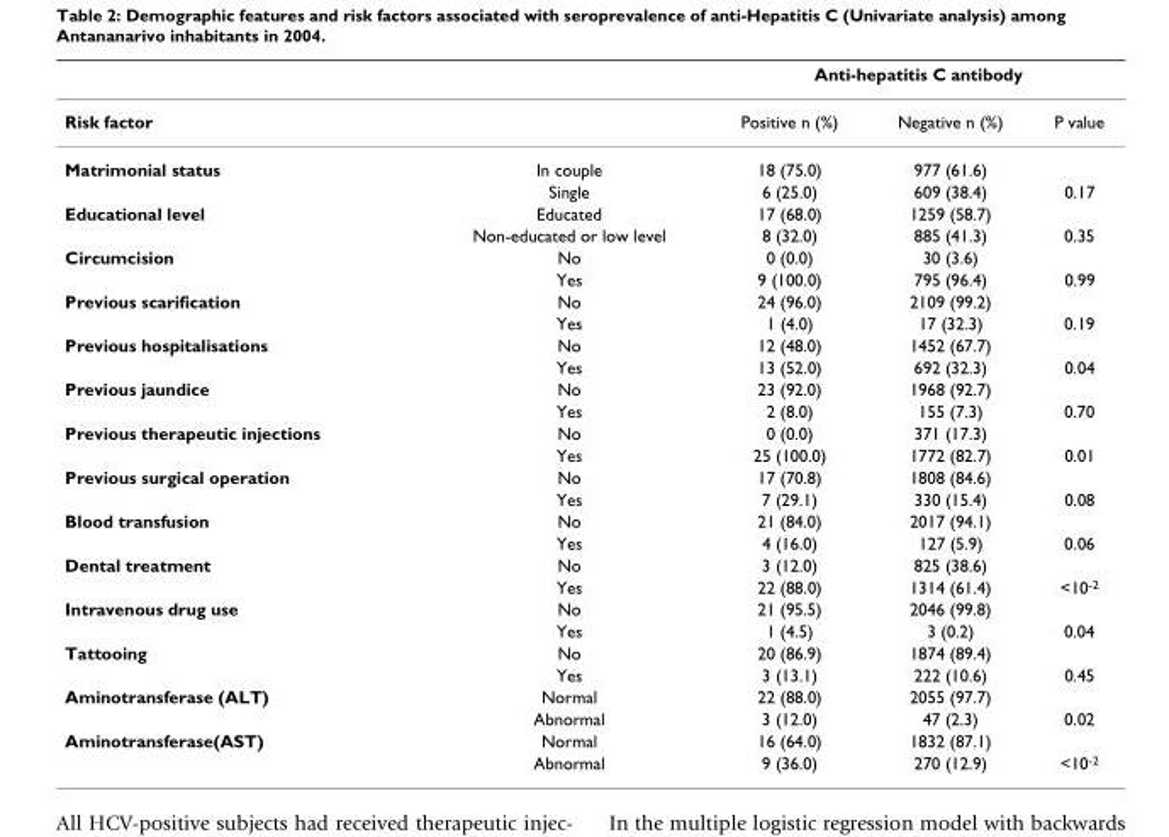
<table><thead><tr><td rowspan="2">Risk factor</td><td rowspan="2"></td><td colspan="3">Anti-hepatitis C antibody</td></tr><tr><td>Positive n (%)</td><td>Negative n (%)</td><td>P value</td></tr></thead><tbody><tr><td rowspan="2">Matrimonial status</td><td>In couple</td><td>18 (75.0)</td><td>977 (61.6)</td><td></td></tr><tr><td>Single</td><td>6 (25.0)</td><td>609 (38.4)</td><td>0.17</td></tr><tr><td rowspan="2">Educational level</td><td>Educated</td><td>17 (68.0)</td><td>1259 (58.7)</td><td></td></tr><tr><td>Non-educated or low level</td><td>8 (32.0)</td><td>885 (41.3)</td><td>0.35</td></tr><tr><td rowspan="2">Circumcision</td><td>No</td><td>0 (0.0)</td><td>30 (3.6)</td><td></td></tr><tr><td>Yes</td><td>9 (100.0)</td><td>795 (96.4)</td><td>0.99</td></tr><tr><td rowspan="2">Previous scarification</td><td>No</td><td>24 (96.0)</td><td>2109 (99.2)</td><td></td></tr><tr><td>Yes</td><td>1 (4.0)</td><td>17 (32.3)</td><td>0.19</td></tr><tr><td rowspan="2">Previous hospitalisations</td><td>No</td><td>12 (48.0)</td><td>1452 (67.7)</td><td></td></tr><tr><td>Yes</td><td>13 (52.0)</td><td>692 (32.3)</td><td>0.04</td></tr><tr><td rowspan="2">Previous jaundice</td><td>No</td><td>23 (92.0)</td><td>1968 (92.7)</td><td></td></tr><tr><td>Yes</td><td>2 (8.0)</td><td>155 (7.3)</td><td>0.70</td></tr><tr><td rowspan="2">Previous therapeutic injections</td><td>No</td><td>0 (0.0)</td><td>371 (17.3)</td><td></td></tr><tr><td>Yes</td><td>25 (100.0)</td><td>1772 (82.7)</td><td>0.01</td></tr><tr><td rowspan="2">Previous surgical operation</td><td>No</td><td>17 (70.8)</td><td>1808 (84.6)</td><td></td></tr><tr><td>Yes</td><td>7 (29.1)</td><td>330 (15.4)</td><td>0.08</td></tr><tr><td rowspan="2">Blood transfusion</td><td>No</td><td>21 (84.0)</td><td>2017 (94.1)</td><td></td></tr><tr><td>Yes</td><td>4 (16.0)</td><td>127 (5.9)</td><td>0.06</td></tr><tr><td rowspan="2">Dental treatment</td><td>No</td><td>3 (12.0)</td><td>825 (38.6)</td><td></td></tr><tr><td>Yes</td><td>22 (88.0)</td><td>1314 (61.4)</td><td>&lt;10<sup>-2</sup></td></tr><tr><td rowspan="2">Intravenous drug use</td><td>No</td><td>21 (95.5)</td><td>2046 (99.8)</td><td></td></tr><tr><td>Yes</td><td>1 (4.5)</td><td>3 (0.2)</td><td>0.04</td></tr><tr><td rowspan="2">Tattooing</td><td>No</td><td>20 (86.9)</td><td>1874 (89.4)</td><td></td></tr><tr><td>Yes</td><td>3 (13.1)</td><td>222 (10.6)</td><td>0.45</td></tr><tr><td rowspan="2">Aminotransferase (ALT)</td><td>Normal</td><td>22 (88.0)</td><td>2055 (97.7)</td><td></td></tr><tr><td>Abnormal</td><td>3 (12.0)</td><td>47 (2.3)</td><td>0.02</td></tr><tr><td rowspan="2">Aminotransferase(AST)</td><td>Normal</td><td>16 (64.0)</td><td>1832 (87.1)</td><td></td></tr><tr><td>Abnormal</td><td>9 (36.0)</td><td>270 (12.9)</td><td>&lt;10<sup>-2</sup></td></tr></tbody></table>